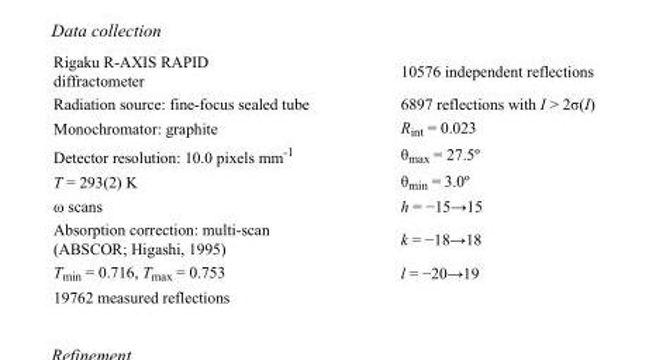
<table><tbody><tr><td>Rigaku R-AXIS RAPID diffractometer</td><td>10576 independent reflections</td></tr><tr><td>Radiation source: fine-focus sealed tube</td><td>6897 reflections with I &gt; 2σ(I)</td></tr><tr><td>Monochromator: graphite</td><td>R<sub>int</sub> = 0.023</td></tr><tr><td>Detector resolution: 10.0 pixels mm<sup>-1</sup></td><td>θ<sub>max</sub> = 27.5º</td></tr><tr><td>T = 293(2) K</td><td>θ<sub>min</sub> = 3.0º</td></tr><tr><td>ω scans</td><td>h = −15→15</td></tr><tr><td>Absorption correction: multi-scan (ABSCOR; Higashi, 1995)</td><td>k = −18→18</td></tr><tr><td>T<sub>min</sub> = 0.716, T<sub>max</sub> = 0.753</td><td>l = −20→19</td></tr><tr><td>19762 measured reflections</td><td></td></tr></tbody></table>